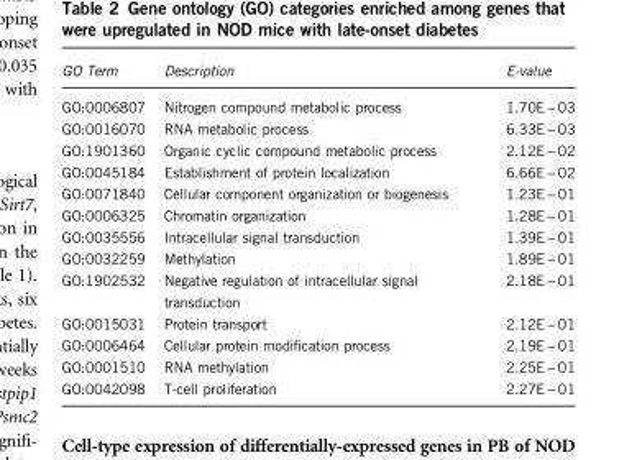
<table><thead><tr><td>GO Term</td><td>Description</td><td>E-value</td></tr></thead><tbody><tr><td>GO:0006807</td><td>Nitrogen compound metabolic process</td><td>1.70E − 03</td></tr><tr><td>GO:0016070</td><td>RNA metabolic process</td><td>6.33E − 03</td></tr><tr><td>GO:1901360</td><td>Organic cyclic compound metabolic process</td><td>2.12E − 02</td></tr><tr><td>GO:0045184</td><td>Establishment of protein localization</td><td>6.66E − 02</td></tr><tr><td>GO:0071840</td><td>Cellular component organization or biogenesis</td><td>1.23E − 01</td></tr><tr><td>GO:0006325</td><td>Chromatin organization</td><td>1.28E − 01</td></tr><tr><td>GO:0035556</td><td>Intracellular signal transduction</td><td>1.39E − 01</td></tr><tr><td>GO:0032259</td><td>Methylation</td><td>1.89E − 01</td></tr><tr><td>GO:1902532</td><td>Negative regulation of intracellular signal transduction</td><td>2.18E − 01</td></tr><tr><td>GO:0015031</td><td>Protein transport</td><td>2.12E − 01</td></tr><tr><td>GO:0006464</td><td>Cellular protein modification process</td><td>2.19E − 01</td></tr><tr><td>GO:0001510</td><td>RNA methylation</td><td>2.25E − 01</td></tr><tr><td>GO:0042098</td><td>T-cell proliferation</td><td>2.27E − 01</td></tr></tbody></table>